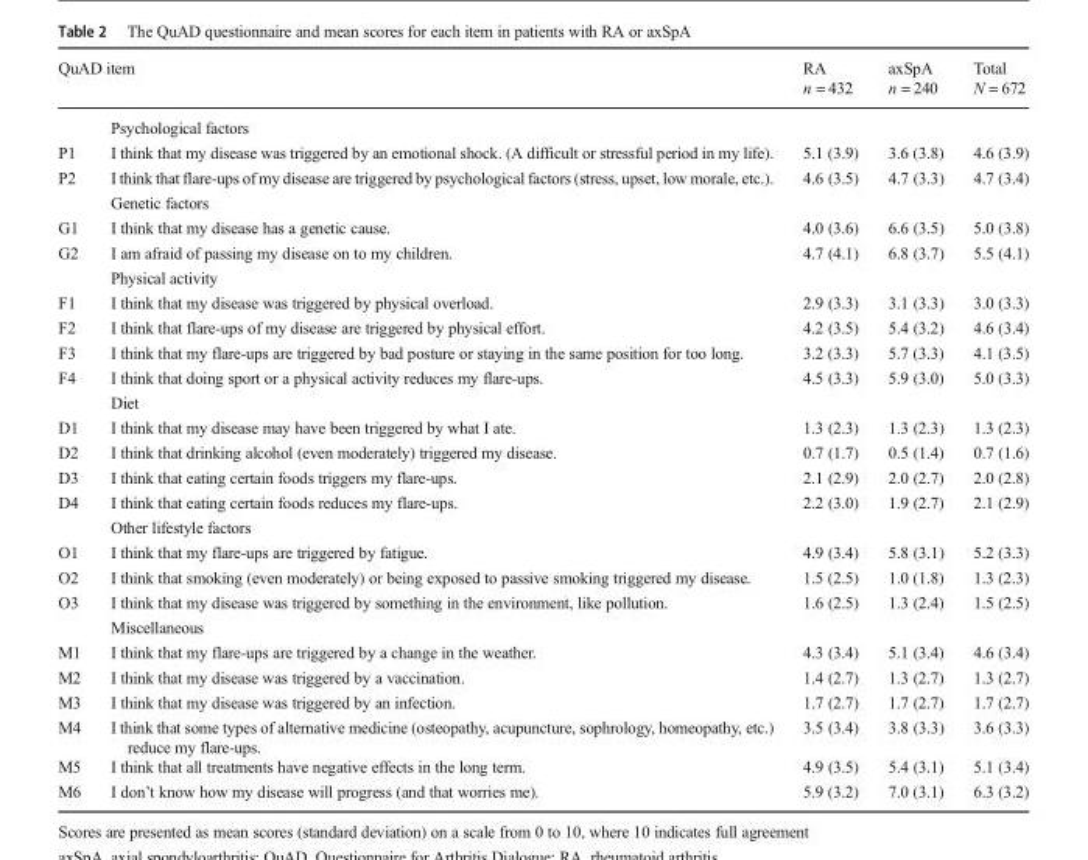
<table><thead><tr><td colspan="2">QuAD item</td><td rowspan="2">RA n = 432</td><td rowspan="2">axSpA n = 240</td><td rowspan="2">Total N = 672</td></tr><tr><td></td><td>Psychological factors</td></tr></thead><tbody><tr><td>P1</td><td>I think that my disease was triggered by an emotional shock. (A difficult or stressful period in my life).</td><td>5.1 (3.9)</td><td>3.6 (3.8)</td><td>4.6 (3.9)</td></tr><tr><td rowspan="2">P2</td><td>I think that flare-ups of my disease are triggered by psychological factors (stress, upset, low morale, etc.).</td><td>4.6 (3.5)</td><td>4.7 (3.3)</td><td>4.7 (3.4)</td></tr><tr><td>Genetic factors</td><td></td><td></td><td></td></tr><tr><td>G1</td><td>I think that my disease has a genetic cause.</td><td>4.0 (3.6)</td><td>6.6 (3.5)</td><td>5.0 (3.8)</td></tr><tr><td rowspan="2">G2</td><td>I am afraid of passing my disease on to my children.</td><td>4.7 (4.1)</td><td>6.8 (3.7)</td><td>5.5 (4.1)</td></tr><tr><td>Physical activity</td><td></td><td></td><td></td></tr><tr><td>F1</td><td>I think that my disease was triggered by physical overload.</td><td>2.9 (3.3)</td><td>3.1 (3.3)</td><td>3.0 (3.3)</td></tr><tr><td>F2</td><td>I think that flare-ups of my disease are triggered by physical effort.</td><td>4.2 (3.5)</td><td>5.4 (3.2)</td><td>4.6 (3.4)</td></tr><tr><td>F3</td><td>I think that my flare-ups are triggered by bad posture or staying in the same position for too long.</td><td>3.2 (3.3)</td><td>5.7 (3.3)</td><td>4.1 (3.5)</td></tr><tr><td rowspan="2">F4</td><td>I think that doing sport or a physical activity reduces my flare-ups.</td><td>4.5 (3.3)</td><td>5.9 (3.0)</td><td>5.0 (3.3)</td></tr><tr><td>Diet</td><td></td><td></td><td></td></tr><tr><td>D1</td><td>I think that my disease may have been triggered by what I ate.</td><td>1.3 (2.3)</td><td>1.3 (2.3)</td><td>1.3 (2.3)</td></tr><tr><td>D2</td><td>I think that drinking alcohol (even moderately) triggered my disease.</td><td>0.7 (1.7)</td><td>0.5 (1.4)</td><td>0.7 (1.6)</td></tr><tr><td>D3</td><td>I think that eating certain foods triggers my flare-ups.</td><td>2.1 (2.9)</td><td>2.0 (2.7)</td><td>2.0 (2.8)</td></tr><tr><td rowspan="2">D4</td><td>I think that eating certain foods reduces my flare-ups.</td><td>2.2 (3.0)</td><td>1.9 (2.7)</td><td>2.1 (2.9)</td></tr><tr><td>Other lifestyle factors</td><td></td><td></td><td></td></tr><tr><td>O1</td><td>I think that my flare-ups are triggered by fatigue.</td><td>4.9 (3.4)</td><td>5.8 (3.1)</td><td>5.2 (3.3)</td></tr><tr><td>O2</td><td>I think that smoking (even moderately) or being exposed to passive smoking triggered my disease.</td><td>1.5 (2.5)</td><td>1.0 (1.8)</td><td>1.3 (2.3)</td></tr><tr><td rowspan="2">O3</td><td>I think that my disease was triggered by something in the environment, like pollution.</td><td>1.6 (2.5)</td><td>1.3 (2.4)</td><td>1.5 (2.5)</td></tr><tr><td>Miscellaneous</td><td></td><td></td><td></td></tr><tr><td>M1</td><td>I think that my flare-ups are triggered by a change in the weather.</td><td>4.3 (3.4)</td><td>5.1 (3.4)</td><td>4.6 (3.4)</td></tr><tr><td>M2</td><td>I think that my disease was triggered by a vaccination.</td><td>1.4 (2.7)</td><td>1.3 (2.7)</td><td>1.3 (2.7)</td></tr><tr><td>M3</td><td>I think that my disease was triggered by an infection.</td><td>1.7 (2.7)</td><td>1.7 (2.7)</td><td>1.7 (2.7)</td></tr><tr><td>M4</td><td>I think that some types of alternative medicine (osteopathy, acupuncture, sophrology, homeopathy, etc.) reduce my flare-ups.</td><td>3.5 (3.4)</td><td>3.8 (3.3)</td><td>3.6 (3.3)</td></tr><tr><td>M5</td><td>I think that all treatments have negative effects in the long term.</td><td>4.9 (3.5)</td><td>5.4 (3.1)</td><td>5.1 (3.4)</td></tr><tr><td>M6</td><td>I don’t know how my disease will progress (and that worries me).</td><td>5.9 (3.2)</td><td>7.0 (3.1)</td><td>6.3 (3.2)</td></tr></tbody></table>